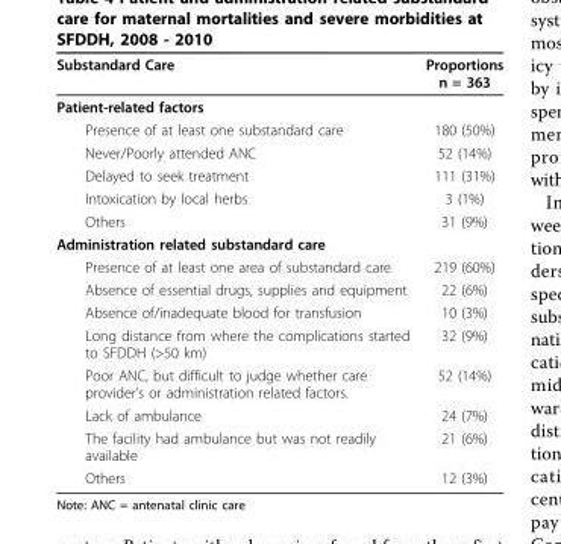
<table><thead><tr><td>Substandard Care</td><td>Proportions n = 363</td></tr></thead><tbody><tr><td colspan="2">Patient-related factors</td></tr><tr><td>Presence of at least one substandard care</td><td>180 (50%)</td></tr><tr><td>Never/Poorly attended ANC</td><td>52 (14%)</td></tr><tr><td>Delayed to seek treatment</td><td>111 (31%)</td></tr><tr><td>Intoxication by local herbs</td><td>3 (1%)</td></tr><tr><td>Others</td><td>31 (9%)</td></tr><tr><td colspan="2">Administration related substandard care</td></tr><tr><td>Presence of at least one area of substandard care</td><td>219 (60%)</td></tr><tr><td>Absence of essential drugs, supplies and equipment</td><td>22 (6%)</td></tr><tr><td>Absence of/inadequate blood for transfusion</td><td>10 (3%)</td></tr><tr><td>Long distance from where the complications started to SFDDH (&gt;50 km)</td><td>32 (9%)</td></tr><tr><td>Poor ANC, but difficult to judge whether care provider’s or administration related factors.</td><td>52 (14%)</td></tr><tr><td>Lack of ambulance</td><td>24 (7%)</td></tr><tr><td>The facility had ambulance but was not readily available</td><td>21 (6%)</td></tr><tr><td>Others</td><td>12 (3%)</td></tr></tbody></table>